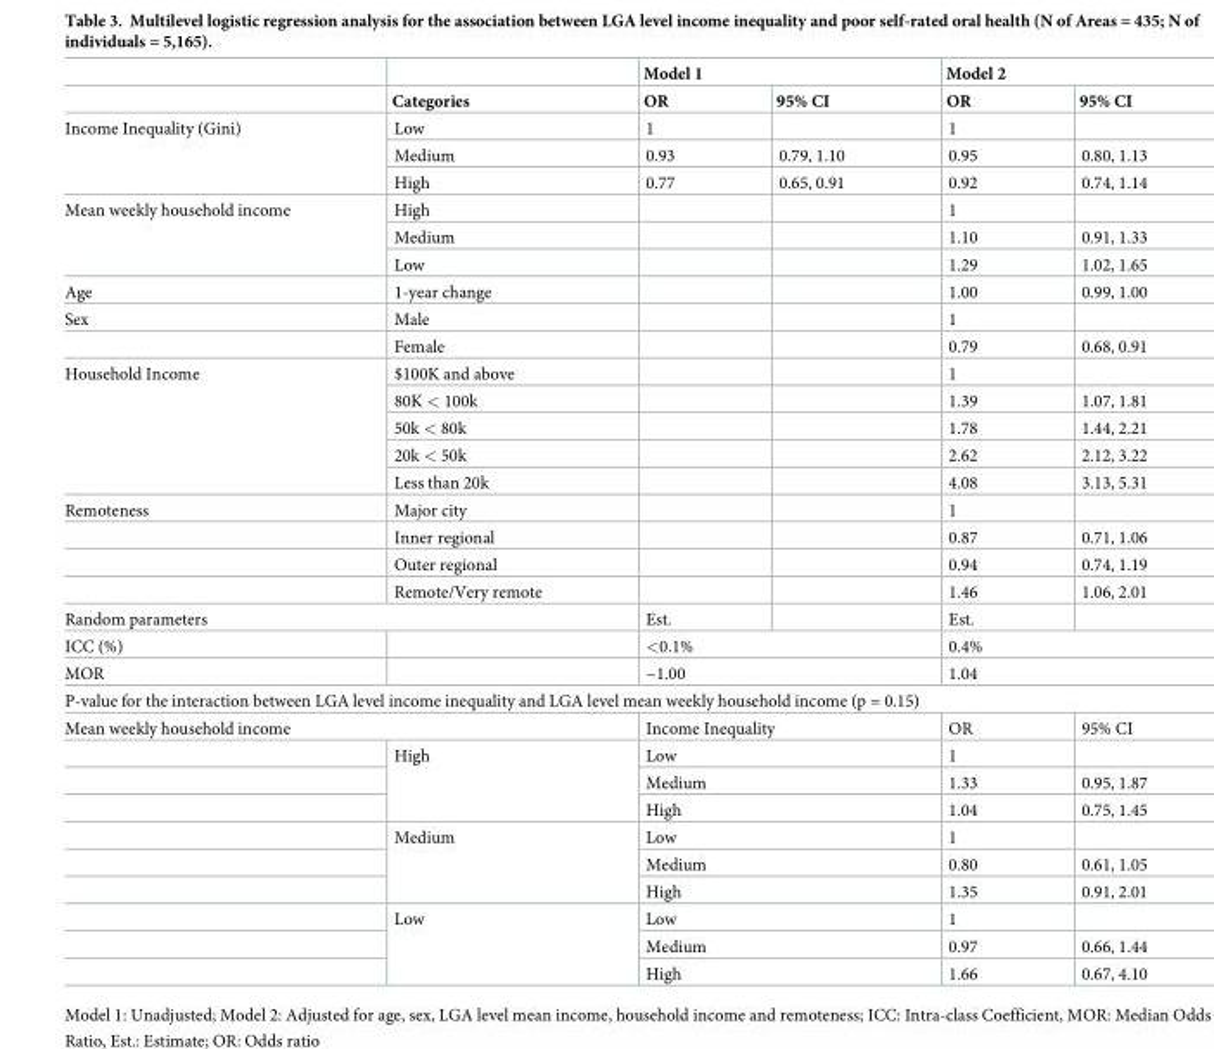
<table><thead><tr><td rowspan="2"></td><td rowspan="2">Categories</td><td colspan="2">Model 1</td><td colspan="2">Model 2</td></tr><tr><td>OR</td><td>95% CI</td><td>OR</td><td>95% CI</td></tr></thead><tbody><tr><td rowspan="3">Income Inequality (Gini)</td><td>Low</td><td>1</td><td></td><td>1</td><td></td></tr><tr><td>Medium</td><td>0.93</td><td>0.79, 1.10</td><td>0.95</td><td>0.80, 1.13</td></tr><tr><td>High</td><td>0.77</td><td>0.65, 0.91</td><td>0.92</td><td>0.74, 1.14</td></tr><tr><td rowspan="3">Mean weekly household income</td><td>High</td><td></td><td></td><td>1</td><td></td></tr><tr><td>Medium</td><td></td><td></td><td>1.10</td><td>0.91, 1.33</td></tr><tr><td>Low</td><td></td><td></td><td>1.29</td><td>1.02, 1.65</td></tr><tr><td>Age</td><td>1-year change</td><td></td><td></td><td>1.00</td><td>0.99, 1.00</td></tr><tr><td rowspan="2">Sex</td><td>Male</td><td></td><td></td><td>1</td><td></td></tr><tr><td>Female</td><td></td><td></td><td>0.79</td><td>0.68, 0.91</td></tr><tr><td rowspan="5">Household Income</td><td>$100K and above</td><td></td><td></td><td>1</td><td></td></tr><tr><td>80K &lt; 100k</td><td></td><td></td><td>1.39</td><td>1.07, 1.81</td></tr><tr><td>50k &lt; 80k</td><td></td><td></td><td>1.78</td><td>1.44, 2.21</td></tr><tr><td>20k &lt; 50k</td><td></td><td></td><td>2.62</td><td>2.12, 3.22</td></tr><tr><td>Less than 20k</td><td></td><td></td><td>4.08</td><td>3.13, 5.31</td></tr><tr><td rowspan="4">Remoteness</td><td>Major city</td><td></td><td></td><td>1</td><td></td></tr><tr><td>Inner regional</td><td></td><td></td><td>0.87</td><td>0.71, 1.06</td></tr><tr><td>Outer regional</td><td></td><td></td><td>0.94</td><td>0.74, 1.19</td></tr><tr><td>Remote/Very remote</td><td></td><td></td><td>1.46</td><td>1.06, 2.01</td></tr><tr><td colspan="2">Random parameters</td><td>Est.</td><td></td><td>Est.</td><td></td></tr><tr><td>ICC (%)</td><td></td><td colspan="2">&lt;0.1%</td><td colspan="2">0.4%</td></tr><tr><td>MOR</td><td></td><td colspan="2">~1.00</td><td colspan="2">1.04</td></tr><tr><td colspan="6">P-value for the interaction between LGA level income inequality and LGA level mean weekly household income (p = 0.15)</td></tr><tr><td colspan="2">Mean weekly household income</td><td colspan="2">Income Inequality</td><td>OR</td><td>95% CI</td></tr><tr><td></td><td rowspan="3">High</td><td colspan="2">Low</td><td>1</td><td></td></tr><tr><td></td><td colspan="2">Medium</td><td>1.33</td><td>0.95, 1.87</td></tr><tr><td></td><td colspan="2">High</td><td>1.04</td><td>0.75, 1.45</td></tr><tr><td></td><td rowspan="3">Medium</td><td colspan="2">Low</td><td>1</td><td></td></tr><tr><td></td><td colspan="2">Medium</td><td>0.80</td><td>0.61, 1.05</td></tr><tr><td></td><td colspan="2">High</td><td>1.35</td><td>0.91, 2.01</td></tr><tr><td></td><td rowspan="3">Low</td><td colspan="2">Low</td><td>1</td><td></td></tr><tr><td></td><td colspan="2">Medium</td><td>0.97</td><td>0.66, 1.44</td></tr><tr><td></td><td colspan="2">High</td><td>1.66</td><td>0.67, 4.10</td></tr></tbody></table>